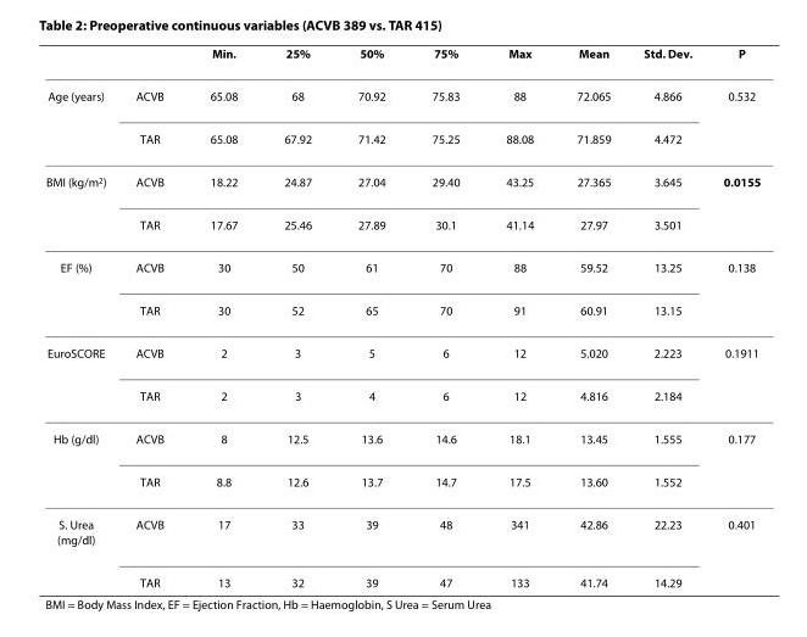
<table><thead><tr><td></td><td></td><td>Min.</td><td>25%</td><td>50%</td><td>75%</td><td>Max</td><td>Mean</td><td>Std. Dev.</td><td>P</td></tr></thead><tbody><tr><td rowspan="2">Age (years)</td><td>ACVB</td><td>65.08</td><td>68</td><td>70.92</td><td>75.83</td><td>88</td><td>72.065</td><td>4.866</td><td>0.532</td></tr><tr><td>TAR</td><td>65.08</td><td>67.92</td><td>71.42</td><td>75.25</td><td>88.08</td><td>71.859</td><td>4.472</td><td></td></tr><tr><td rowspan="2">BMI (kg/m<sup>2</sup>)</td><td>ACVB</td><td>18.22</td><td>24.87</td><td>27.04</td><td>29.40</td><td>43.25</td><td>27.365</td><td>3.645</td><td>0.0155</td></tr><tr><td>TAR</td><td>17.67</td><td>25.46</td><td>27.89</td><td>30.1</td><td>41.14</td><td>27.97</td><td>3.501</td><td></td></tr><tr><td rowspan="2">EF (%)</td><td>ACVB</td><td>30</td><td>50</td><td>61</td><td>70</td><td>88</td><td>59.52</td><td>13.25</td><td>0.138</td></tr><tr><td>TAR</td><td>30</td><td>52</td><td>65</td><td>70</td><td>91</td><td>60.91</td><td>13.15</td><td></td></tr><tr><td rowspan="2">EuroSCORE</td><td>ACVB</td><td>2</td><td>3</td><td>5</td><td>6</td><td>12</td><td>5.020</td><td>2.223</td><td>0.1911</td></tr><tr><td>TAR</td><td>2</td><td>3</td><td>4</td><td>6</td><td>12</td><td>4.816</td><td>2.184</td><td></td></tr><tr><td rowspan="2">Hb (g/dl)</td><td>ACVB</td><td>8</td><td>12.5</td><td>13.6</td><td>14.6</td><td>18.1</td><td>13.45</td><td>1.555</td><td>0.177</td></tr><tr><td>TAR</td><td>8.8</td><td>12.6</td><td>13.7</td><td>14.7</td><td>17.5</td><td>13.60</td><td>1.552</td><td></td></tr><tr><td rowspan="2">S. Urea (mg/dl)</td><td>ACVB</td><td>17</td><td>33</td><td>39</td><td>48</td><td>341</td><td>42.86</td><td>22.23</td><td>0.401</td></tr><tr><td>TAR</td><td>13</td><td>32</td><td>39</td><td>47</td><td>133</td><td>41.74</td><td>14.29</td><td></td></tr></tbody></table>